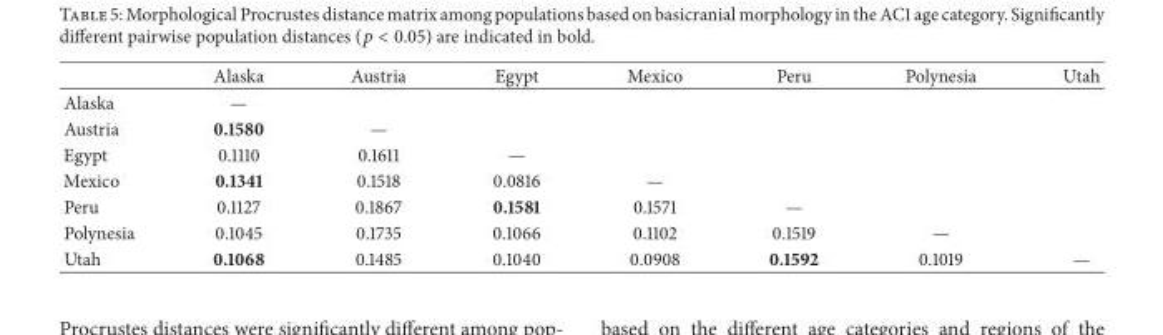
<table><thead><tr><td></td><td>Alaska</td><td>Austria</td><td>Egypt</td><td>Mexico</td><td>Peru</td><td>Polynesia</td><td>Utah</td></tr></thead><tbody><tr><td>Alaska</td><td>—</td><td></td><td></td><td></td><td></td><td></td><td></td></tr><tr><td>Austria</td><td>0.1580</td><td>—</td><td></td><td></td><td></td><td></td><td></td></tr><tr><td>Egypt</td><td>0.1110</td><td>0.1611</td><td>—</td><td></td><td></td><td></td><td></td></tr><tr><td>Mexico</td><td>0.1341</td><td>0.1518</td><td>0.0816</td><td>—</td><td></td><td></td><td></td></tr><tr><td>Peru</td><td>0.1127</td><td>0.1867</td><td>0.1581</td><td>0.1571</td><td>—</td><td></td><td></td></tr><tr><td>Polynesia</td><td>0.1045</td><td>0.1735</td><td>0.1066</td><td>0.1102</td><td>0.1519</td><td>—</td><td></td></tr><tr><td>Utah</td><td>0.1068</td><td>0.1485</td><td>0.1040</td><td>0.0908</td><td>0.1592</td><td>0.1019</td><td>—</td></tr></tbody></table>